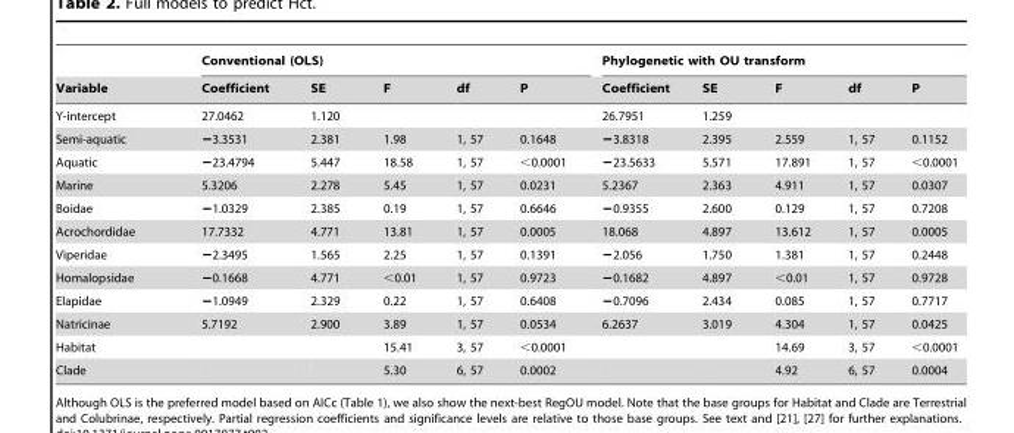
<table><thead><tr><td rowspan="2">Variable</td><td colspan="5">Conventional (OLS)</td><td colspan="5">Phylogenetic with OU transform</td></tr><tr><td>Coefficient</td><td>SE</td><td>F</td><td>df</td><td>P</td><td>Coefficient</td><td>SE</td><td>F</td><td>df</td><td>P</td></tr></thead><tbody><tr><td>Y-intercept</td><td>27.0462</td><td>1.120</td><td></td><td></td><td></td><td>26.7951</td><td>1.259</td><td></td><td></td><td></td></tr><tr><td>Semi-aquatic</td><td>−3.3531</td><td>2.381</td><td>1.98</td><td>1, 57</td><td>0.1648</td><td>−3.8318</td><td>2.395</td><td>2.559</td><td>1, 57</td><td>0.1152</td></tr><tr><td>Aquatic</td><td>−23.4794</td><td>5.447</td><td>18.58</td><td>1, 57</td><td>&lt;0.0001</td><td>−23.5633</td><td>5.571</td><td>17.891</td><td>1, 57</td><td>&lt;0.0001</td></tr><tr><td>Marine</td><td>5.3206</td><td>2.278</td><td>5.45</td><td>1, 57</td><td>0.0231</td><td>5.2367</td><td>2.363</td><td>4.911</td><td>1, 57</td><td>0.0307</td></tr><tr><td>Boidae</td><td>−1.0329</td><td>2.385</td><td>0.19</td><td>1, 57</td><td>0.6646</td><td>−0.9355</td><td>2.600</td><td>0.129</td><td>1, 57</td><td>0.7208</td></tr><tr><td>Acrochordidae</td><td>17.7332</td><td>4.771</td><td>13.81</td><td>1, 57</td><td>0.0005</td><td>18.068</td><td>4.897</td><td>13.612</td><td>1, 57</td><td>0.0005</td></tr><tr><td>Viperidae</td><td>−2.3495</td><td>1.565</td><td>2.25</td><td>1, 57</td><td>0.1391</td><td>−2.056</td><td>1.750</td><td>1.381</td><td>1, 57</td><td>0.2448</td></tr><tr><td>Homalopsidae</td><td>−0.1668</td><td>4.771</td><td>&lt;0.01</td><td>1, 57</td><td>0.9723</td><td>−0.1682</td><td>4.897</td><td>&lt;0.01</td><td>1, 57</td><td>0.9728</td></tr><tr><td>Elapidae</td><td>−1.0949</td><td>2.329</td><td>0.22</td><td>1, 57</td><td>0.6408</td><td>−0.7096</td><td>2.434</td><td>0.085</td><td>1, 57</td><td>0.7717</td></tr><tr><td>Natricinae</td><td>5.7192</td><td>2.900</td><td>3.89</td><td>1, 57</td><td>0.0534</td><td>6.2637</td><td>3.019</td><td>4.304</td><td>1, 57</td><td>0.0425</td></tr><tr><td>Habitat</td><td></td><td></td><td>15.41</td><td>3, 57</td><td>&lt;0.0001</td><td></td><td></td><td>14.69</td><td>3, 57</td><td>&lt;0.0001</td></tr><tr><td>Clade</td><td></td><td></td><td>5.30</td><td>6, 57</td><td>0.0002</td><td></td><td></td><td>4.92</td><td>6, 57</td><td>0.0004</td></tr></tbody></table>